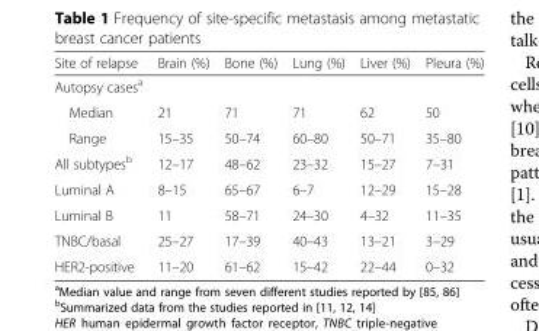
<table><thead><tr><td>Site of relapse</td><td>Brain (%)</td><td>Bone (%)</td><td>Lung (%)</td><td>Liver (%)</td><td>Pleura (%)</td></tr></thead><tbody><tr><td colspan="6">Autopsy cases<sup>a</sup></td></tr><tr><td>Median</td><td>21</td><td>71</td><td>71</td><td>62</td><td>50</td></tr><tr><td>Range</td><td>15–35</td><td>50–74</td><td>60–80</td><td>50–71</td><td>35–80</td></tr><tr><td>All subtypes<sup>b</sup></td><td>12–17</td><td>48–62</td><td>23–32</td><td>15–27</td><td>7–31</td></tr><tr><td>Luminal A</td><td>8–15</td><td>65–67</td><td>6–7</td><td>12–29</td><td>15–28</td></tr><tr><td>Luminal B</td><td>11</td><td>58–71</td><td>24–30</td><td>4–32</td><td>11–35</td></tr><tr><td>TNBC/basal</td><td>25–27</td><td>17–39</td><td>40–43</td><td>13–21</td><td>3–29</td></tr><tr><td>HER2-positive</td><td>11–20</td><td>61–62</td><td>15–42</td><td>22–44</td><td>0–32</td></tr></tbody></table>